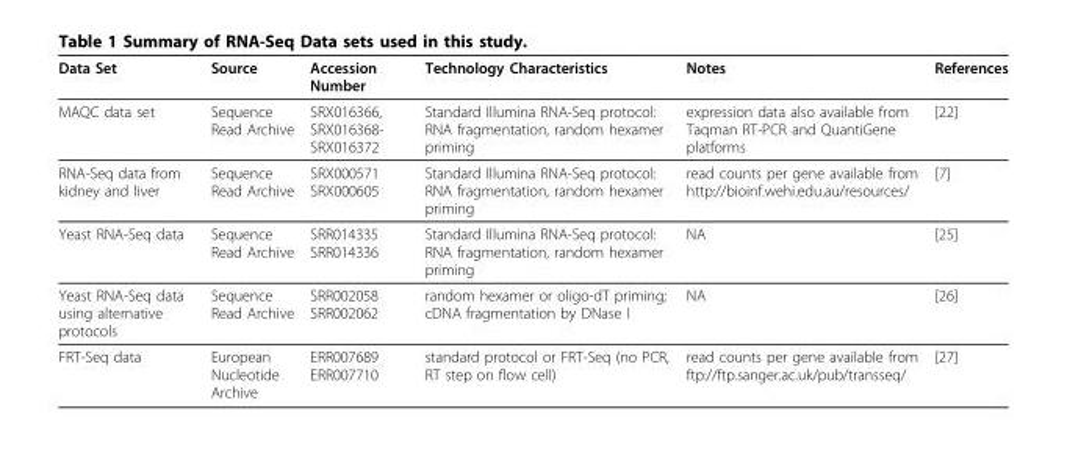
<table><thead><tr><td>Data Set</td><td>Source</td><td>Accession Number</td><td>Technology Characteristics</td><td>Notes</td><td>References</td></tr></thead><tbody><tr><td>MAQC data set</td><td>Sequence Read Archive</td><td>SRX016366, SRX016368- SRX016372</td><td>Standard Illumina RNA-Seq protocol: RNA fragmentation, random hexamer priming</td><td>expression data also available from Taqman RT-PCR and QuantiGene platforms</td><td>[22]</td></tr><tr><td>RNA-Seq data from kidney and liver</td><td>Sequence Read Archive</td><td>SRX000571 SRX000605</td><td>Standard Illumina RNA-Seq protocol: RNA fragmentation, random hexamer priming</td><td>read counts per gene available from http://bioinf.wehi.edu.au/resources/</td><td>[7]</td></tr><tr><td>Yeast RNA-Seq data</td><td>Sequence Read Archive</td><td>SRR014335 SRR014336</td><td>Standard Illumina RNA-Seq protocol: RNA fragmentation, random hexamer priming</td><td>NA</td><td>[25]</td></tr><tr><td>Yeast RNA-Seq data using alternative protocols</td><td>Sequence Read Archive</td><td>SRR002058 SRR002062</td><td>random hexamer or oligo-dT priming; cDNA fragmentation by DNase I</td><td>NA</td><td>[26]</td></tr><tr><td>FRT-Seq data</td><td>European Nucleotide Archive</td><td>ERR007689 ERR007710</td><td>standard protocol or FRT-Seq (no PCR, RT step on flow cell)</td><td>read counts per gene available from ftp://ftp.sanger.ac.uk/pub/transseq/</td><td>[27]</td></tr></tbody></table>